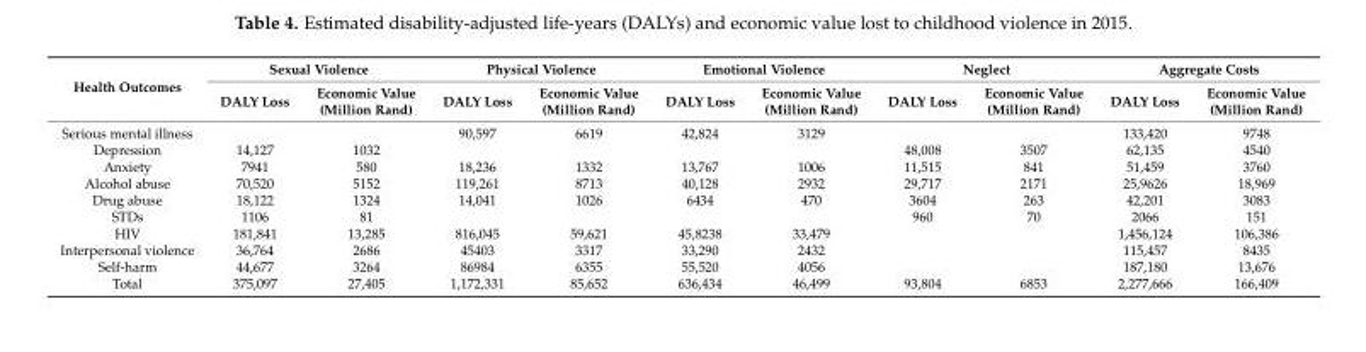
<table><thead><tr><td rowspan="2">Health Outcomes</td><td colspan="2">Sexual Violence</td><td colspan="2">Physical Violence</td><td colspan="2">Emotional Violence</td><td colspan="2">Neglect</td><td colspan="2">Aggregate Costs</td></tr><tr><td>DALY Loss</td><td>Economic Value (Million Rand)</td><td>DALY Loss</td><td>Economic Value (Million Rand)</td><td>DALY Loss</td><td>Economic Value (Million Rand)</td><td>DALY Loss</td><td>Economic Value (Million Rand)</td><td>DALY Loss</td><td>Economic Value (Million Rand)</td></tr></thead><tbody><tr><td>Serious mental illness</td><td></td><td></td><td>90,597</td><td>6619</td><td>42,824</td><td>3129</td><td></td><td></td><td>133,420</td><td>9748</td></tr><tr><td>Depression</td><td>14,127</td><td>1032</td><td></td><td></td><td></td><td></td><td>48,008</td><td>3507</td><td>62,135</td><td>4540</td></tr><tr><td>Anxiety</td><td>7941</td><td>580</td><td>18,236</td><td>1332</td><td>13,767</td><td>1006</td><td>11,515</td><td>841</td><td>51,459</td><td>3760</td></tr><tr><td>Alcohol abuse</td><td>70,520</td><td>5152</td><td>119,261</td><td>8713</td><td>40,128</td><td>2932</td><td>29,717</td><td>2171</td><td>25,9626</td><td>18,969</td></tr><tr><td>Drug abuse</td><td>18,122</td><td>1324</td><td>14,041</td><td>1026</td><td>6434</td><td>470</td><td>3604</td><td>263</td><td>42,201</td><td>3083</td></tr><tr><td>STDs</td><td>1106</td><td>81</td><td></td><td></td><td></td><td></td><td>960</td><td>70</td><td>2066</td><td>151</td></tr><tr><td>HIV</td><td>181,841</td><td>13,285</td><td>816,045</td><td>59,621</td><td>45,8238</td><td>33,479</td><td></td><td></td><td>1,456,124</td><td>106,386</td></tr><tr><td>Interpersonal violence</td><td>36,764</td><td>2686</td><td>45403</td><td>3317</td><td>33,290</td><td>2432</td><td></td><td></td><td>115,457</td><td>8435</td></tr><tr><td>Self-harm</td><td>44,677</td><td>3264</td><td>86984</td><td>6355</td><td>55,520</td><td>4056</td><td></td><td></td><td>187,180</td><td>13,676</td></tr><tr><td>Total</td><td>375,097</td><td>27,405</td><td>1,172,331</td><td>85,652</td><td>636,434</td><td>46,499</td><td>93,804</td><td>6853</td><td>2,277,666</td><td>166,409</td></tr></tbody></table>